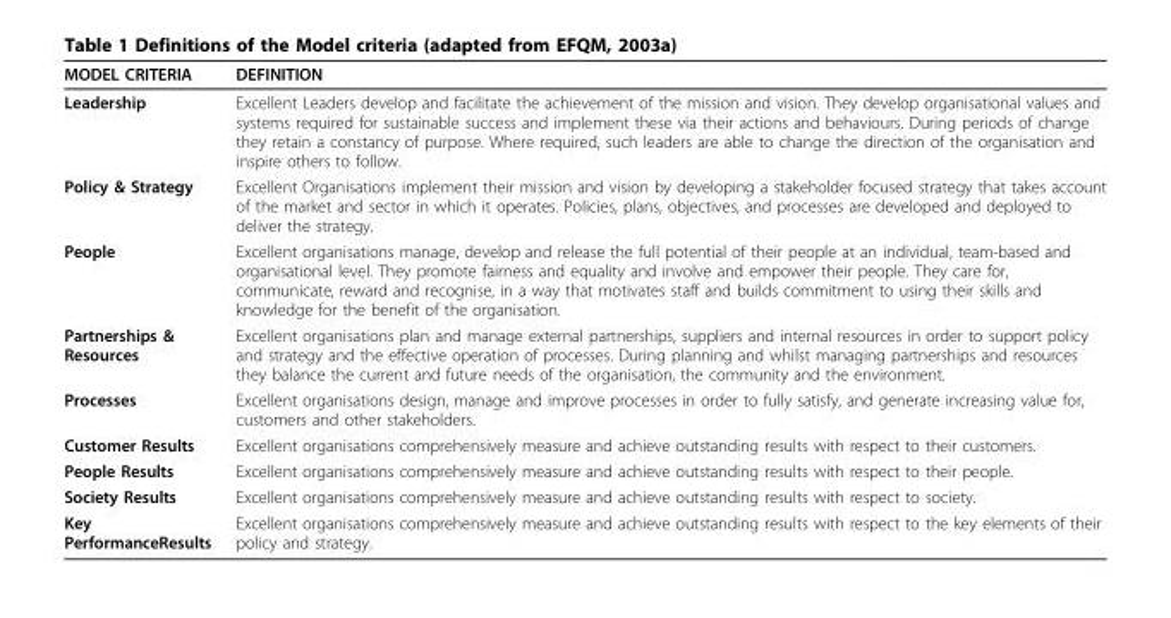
<table><thead><tr><td>MODEL CRITERIA</td><td>DEFINITION</td></tr></thead><tbody><tr><td>Leadership</td><td>Excellent Leaders develop and facilitate the achievement of the mission and vision. They develop organisational values and systems required for sustainable success and implement these via their actions and behaviours. During periods of change they retain a constancy of purpose. Where required, such leaders are able to change the direction of the organisation and inspire others to follow.</td></tr><tr><td>Policy &amp; Strategy</td><td>Excellent Organisations implement their mission and vision by developing a stakeholder focused strategy that takes account of the market and sector in which it operates. Policies, plans, objectives, and processes are developed and deployed to deliver the strategy.</td></tr><tr><td>People</td><td>Excellent organisations manage, develop and release the full potential of their people at an individual, team-based and organisational level. They promote fairness and equality and involve and empower their people. They care for, communicate, reward and recognise, in a way that motivates staff and builds commitment to using their skills and knowledge for the benefit of the organisation.</td></tr><tr><td>Partnerships &amp; Resources</td><td>Excellent organisations plan and manage external partnerships, suppliers and internal resources in order to support policy and strategy and the effective operation of processes. During planning and whilst managing partnerships and resources they balance the current and future needs of the organisation, the community and the environment.</td></tr><tr><td>Processes</td><td>Excellent organisations design, manage and improve processes in order to fully satisfy, and generate increasing value for, customers and other stakeholders.</td></tr><tr><td>Customer Results</td><td>Excellent organisations comprehensively measure and achieve outstanding results with respect to their customers.</td></tr><tr><td>People Results</td><td>Excellent organisations comprehensively measure and achieve outstanding results with respect to their people.</td></tr><tr><td>Society Results</td><td>Excellent organisations comprehensively measure and achieve outstanding results with respect to society.</td></tr><tr><td>Key PerformanceResults</td><td>Excellent organisations comprehensively measure and achieve outstanding results with respect to the key elements of their policy and strategy.</td></tr></tbody></table>